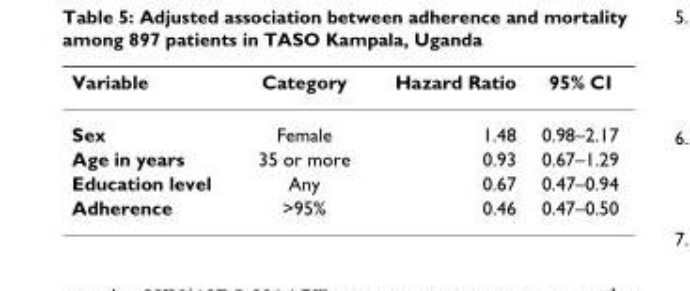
<table><thead><tr><td>Variable</td><td>Category</td><td>Hazard Ratio</td><td>95% CI</td></tr></thead><tbody><tr><td>Sex</td><td>Female</td><td>1.48</td><td>0.98–2.17</td></tr><tr><td>Age in years</td><td>35 or more</td><td>0.93</td><td>0.67–1.29</td></tr><tr><td>Education level</td><td>Any</td><td>0.67</td><td>0.47–0.94</td></tr><tr><td>Adherence</td><td>&gt;95%</td><td>0.46</td><td>0.47–0.50</td></tr></tbody></table>